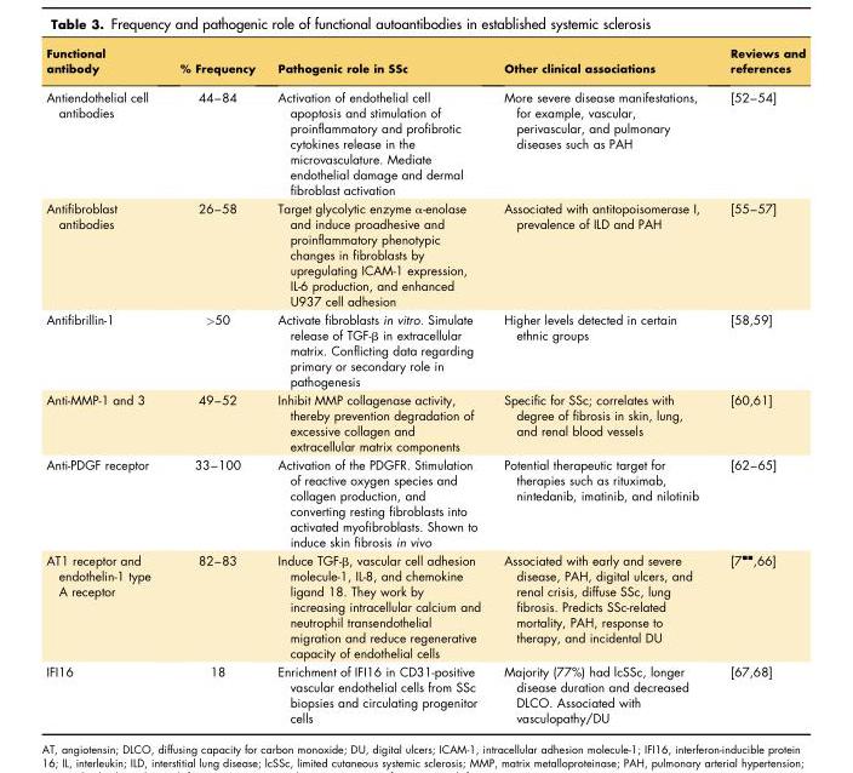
<table><thead><tr><td>Functional antibody</td><td>% Frequency</td><td>Pathogenic role in SSc</td><td>Other clinical associations</td><td>Reviews and references</td></tr></thead><tbody><tr><td>Antiendothelial cell antibodies</td><td>44–84</td><td>Activation of endothelial cell apoptosis and stimulation of proinflammatory and profibrotic cytokines release in the microvasculature. Mediate endothelial damage and dermal fibroblast activation</td><td>More severe disease manifestations, for example, vascular, perivascular, and pulmonary diseases such as PAH</td><td>[52–54]</td></tr><tr><td>Antifibroblast antibodies</td><td>26–58</td><td>Target glycolytic enzyme α-enolase and induce proadhesive and proinflammatory phenotypic changes in fibroblasts by upregulating ICAM-1 expression, IL-6 production, and enhanced U937 cell adhesion</td><td>Associated with antitopoisomerase I, prevalence of ILD and PAH</td><td>[55–57]</td></tr><tr><td>Antifibrillin-1</td><td>&gt;50</td><td>Activate fibroblasts in vitro. Simulate release of TGF-β in extracellular matrix. Conflicting data regarding primary or secondary role in pathogenesis</td><td>Higher levels detected in certain ethnic groups</td><td>[58,59]</td></tr><tr><td>Anti-MMP-1 and 3</td><td>49–52</td><td>Inhibit MMP collagenase activity, thereby prevention degradation of excessive collagen and extracellular matrix components</td><td>Specific for SSc; correlates with degree of fibrosis in skin, lung, and renal blood vessels</td><td>[60,61]</td></tr><tr><td>Anti-PDGF receptor</td><td>33–100</td><td>Activation of the PDGFR. Stimulation of reactive oxygen species and collagen production, and converting resting fibroblasts into activated myofibroblasts. Shown to induce skin fibrosis in vivo</td><td>Potential therapeutic target for therapies such as rituximab, nintedanib, imatinib, and nilotinib</td><td>[62–65]</td></tr><tr><td>AT1 receptor and endothelin-1 type A receptor</td><td>82–83</td><td>Induce TGF-β, vascular cell adhesion molecule-1, IL-8, and chemokine ligand 18. They work by increasing intracellular calcium and neutrophil transendothelial migration and reduce regenerative capacity of endothelial cells</td><td>Associated with early and severe disease, PAH, digital ulcers, and renal crisis, diffuse SSc, lung fibrosis. Predicts SSc-related mortality, PAH, response to therapy, and incidental DU</td><td>[7 <sup>▪▪</sup>,66]</td></tr><tr><td>IFI16</td><td>18</td><td>Enrichment of IFI16 in CD31-positive vascular endothelial cells from SSc biopsies and circulating progenitor cells</td><td>Majority (77%) had lcSSc, longer disease duration and decreased DLCO. Associated with vasculopathy/DU</td><td>[67,68]</td></tr></tbody></table>